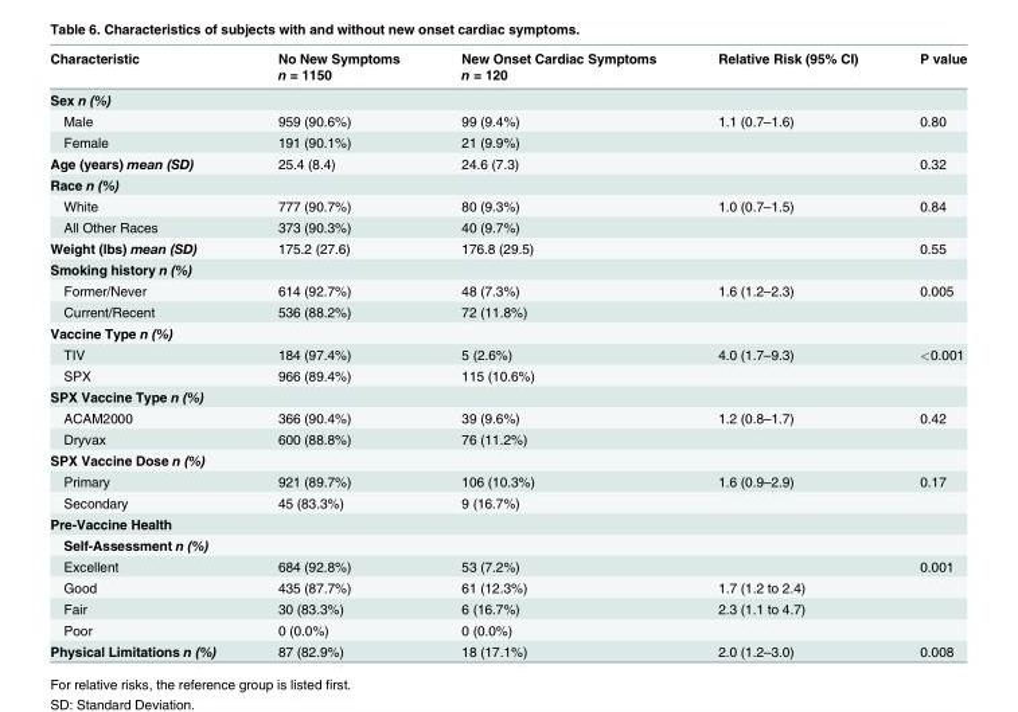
<table><thead><tr><td rowspan="2">Characteristic</td><td rowspan="2">No New Symptoms n = 1150</td><td rowspan="2">New Onset Cardiac Symptoms n = 120</td><td rowspan="2">Relative Risk (95% CI)</td><td rowspan="2">P value</td></tr><tr></tr></thead><tbody><tr><td colspan="5">Sex n (%)</td></tr><tr><td>Male</td><td>959 (90.6%)</td><td>99 (9.4%)</td><td>1.1 (0.7–1.6)</td><td>0.80</td></tr><tr><td>Female</td><td>191 (90.1%)</td><td>21 (9.9%)</td><td></td><td></td></tr><tr><td>Age (years) mean (SD)</td><td>25.4 (8.4)</td><td>24.6 (7.3)</td><td></td><td>0.32</td></tr><tr><td colspan="5">Race n (%)</td></tr><tr><td>White</td><td>777 (90.7%)</td><td>80 (9.3%)</td><td>1.0 (0.7–1.5)</td><td>0.84</td></tr><tr><td>All Other Races</td><td>373 (90.3%)</td><td>40 (9.7%)</td><td></td><td></td></tr><tr><td>Weight (lbs) mean (SD)</td><td>175.2 (27.6)</td><td>176.8 (29.5)</td><td></td><td>0.55</td></tr><tr><td colspan="5">Smoking history n (%)</td></tr><tr><td>Former/Never</td><td>614 (92.7%)</td><td>48 (7.3%)</td><td>1.6 (1.2–2.3)</td><td>0.005</td></tr><tr><td>Current/Recent</td><td>536 (88.2%)</td><td>72 (11.8%)</td><td></td><td></td></tr><tr><td colspan="5">Vaccine Type n (%)</td></tr><tr><td>TIV</td><td>184 (97.4%)</td><td>5 (2.6%)</td><td>4.0 (1.7–9.3)</td><td>&lt;0.001</td></tr><tr><td>SPX</td><td>966 (89.4%)</td><td>115 (10.6%)</td><td colspan="2"></td></tr><tr><td colspan="5">SPX Vaccine Type n (%)</td></tr><tr><td>ACAM2000</td><td>366 (90.4%)</td><td>39 (9.6%)</td><td>1.2 (0.8–1.7)</td><td>0.42</td></tr><tr><td>Dryvax</td><td>600 (88.8%)</td><td>76 (11.2%)</td><td></td><td></td></tr><tr><td colspan="5">SPX Vaccine Dose n (%)</td></tr><tr><td>Primary</td><td>921 (89.7%)</td><td>106 (10.3%)</td><td>1.6 (0.9–2.9)</td><td>0.17</td></tr><tr><td>Secondary</td><td>45 (83.3%)</td><td>9 (16.7%)</td><td></td><td></td></tr><tr><td colspan="5">Pre-Vaccine Health</td></tr><tr><td colspan="5">Self-Assessment n (%)</td></tr><tr><td>Excellent</td><td>684 (92.8%)</td><td>53 (7.2%)</td><td></td><td>0.001</td></tr><tr><td>Good</td><td>435 (87.7%)</td><td>61 (12.3%)</td><td>1.7 (1.2 to 2.4)</td><td></td></tr><tr><td>Fair</td><td>30 (83.3%)</td><td>6 (16.7%)</td><td>2.3 (1.1 to 4.7)</td><td></td></tr><tr><td>Poor</td><td>0 (0.0%)</td><td>0 (0.0%)</td><td></td><td></td></tr><tr><td>Physical Limitations n (%)</td><td>87 (82.9%)</td><td>18 (17.1%)</td><td>2.0 (1.2–3.0)</td><td>0.008</td></tr></tbody></table>